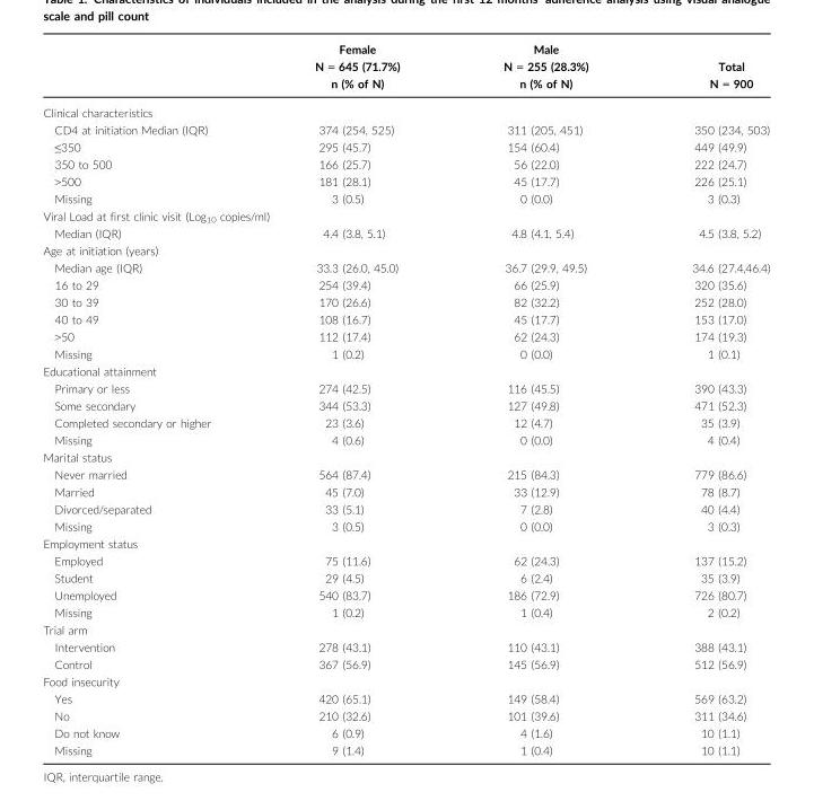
<table><thead><tr><td></td><td>Female N = 645 (71.7%) n (% of N)</td><td>Male N = 255 (28.3%) n (% of N)</td><td>Total N = 900</td></tr></thead><tbody><tr><td colspan="4">Clinical characteristics</td></tr><tr><td>CD4 at initiation Median (IQR)</td><td>374 (254, 525)</td><td>311 (205, 451)</td><td>350 (234, 503)</td></tr><tr><td>≤350</td><td>295 (45.7)</td><td>154 (60.4)</td><td>449 (49.9)</td></tr><tr><td>350 to 500</td><td>166 (25.7)</td><td>56 (22.0)</td><td>222 (24.7)</td></tr><tr><td>&gt;500</td><td>181 (28.1)</td><td>45 (17.7)</td><td>226 (25.1)</td></tr><tr><td>Missing</td><td>3 (0.5)</td><td>0 (0.0)</td><td>3 (0.3)</td></tr><tr><td colspan="4">Viral Load at first clinic visit (Log<sub>10</sub> copies/ml)</td></tr><tr><td>Median (IQR)</td><td>4.4 (3.8, 5.1)</td><td>4.8 (4.1, 5.4)</td><td>4.5 (3.8, 5.2)</td></tr><tr><td colspan="4">Age at initiation (years)</td></tr><tr><td>Median age (IQR)</td><td>33.3 (26.0, 45.0)</td><td>36.7 (29.9, 49.5)</td><td>34.6 (27.4,46.4)</td></tr><tr><td>16 to 29</td><td>254 (39.4)</td><td>66 (25.9)</td><td>320 (35.6)</td></tr><tr><td>30 to 39</td><td>170 (26.6)</td><td>82 (32.2)</td><td>252 (28.0)</td></tr><tr><td>40 to 49</td><td>108 (16.7)</td><td>45 (17.7)</td><td>153 (17.0)</td></tr><tr><td>&gt;50</td><td>112 (17.4)</td><td>62 (24.3)</td><td>174 (19.3)</td></tr><tr><td>Missing</td><td>1 (0.2)</td><td>0 (0.0)</td><td>1 (0.1)</td></tr><tr><td colspan="4">Educational attainment</td></tr><tr><td>Primary or less</td><td>274 (42.5)</td><td>116 (45.5)</td><td>390 (43.3)</td></tr><tr><td>Some secondary</td><td>344 (53.3)</td><td>127 (49.8)</td><td>471 (52.3)</td></tr><tr><td>Completed secondary or higher</td><td>23 (3.6)</td><td>12 (4.7)</td><td>35 (3.9)</td></tr><tr><td>Missing</td><td>4 (0.6)</td><td>0 (0.0)</td><td>4 (0.4)</td></tr><tr><td colspan="4">Marital status</td></tr><tr><td>Never married</td><td>564 (87.4)</td><td>215 (84.3)</td><td>779 (86.6)</td></tr><tr><td>Married</td><td>45 (7.0)</td><td>33 (12.9)</td><td>78 (8.7)</td></tr><tr><td>Divorced/separated</td><td>33 (5.1)</td><td>7 (2.8)</td><td>40 (4.4)</td></tr><tr><td>Missing</td><td>3 (0.5)</td><td>0 (0.0)</td><td>3 (0.3)</td></tr><tr><td colspan="4">Employment status</td></tr><tr><td>Employed</td><td>75 (11.6)</td><td>62 (24.3)</td><td>137 (15.2)</td></tr><tr><td>Student</td><td>29 (4.5)</td><td>6 (2.4)</td><td>35 (3.9)</td></tr><tr><td>Unemployed</td><td>540 (83.7)</td><td>186 (72.9)</td><td>726 (80.7)</td></tr><tr><td>Missing</td><td>1 (0.2)</td><td>1 (0.4)</td><td>2 (0.2)</td></tr><tr><td colspan="4">Trial arm</td></tr><tr><td>Intervention</td><td>278 (43.1)</td><td>110 (43.1)</td><td>388 (43.1)</td></tr><tr><td>Control</td><td>367 (56.9)</td><td>145 (56.9)</td><td>512 (56.9)</td></tr><tr><td colspan="4">Food insecurity</td></tr><tr><td>Yes</td><td>420 (65.1)</td><td>149 (58.4)</td><td>569 (63.2)</td></tr><tr><td>No</td><td>210 (32.6)</td><td>101 (39.6)</td><td>311 (34.6)</td></tr><tr><td>Do not know</td><td>6 (0.9)</td><td>4 (1.6)</td><td>10 (1.1)</td></tr><tr><td>Missing</td><td>9 (1.4)</td><td>1 (0.4)</td><td>10 (1.1)</td></tr></tbody></table>